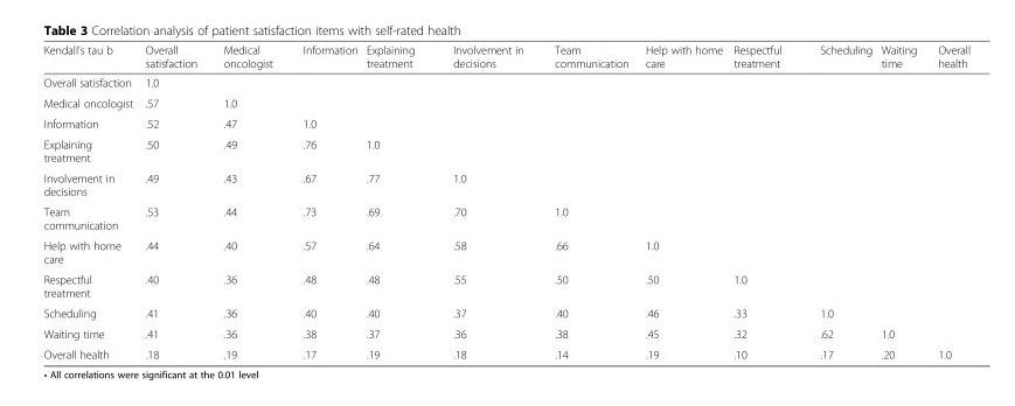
<table><thead><tr><td>Kendall’s tau b</td><td>Overall satisfaction</td><td>Medical oncologist</td><td>Information</td><td>Explaining treatment</td><td>Involvement in decisions</td><td>Team communication</td><td>Help with home care</td><td>Respectful treatment</td><td>Scheduling</td><td>Waiting time</td><td>Overall health</td></tr></thead><tbody><tr><td>Overall satisfaction</td><td>1.0</td><td></td><td></td><td></td><td></td><td></td><td></td><td></td><td></td><td></td><td></td></tr><tr><td>Medical oncologist</td><td>.57</td><td>1.0</td><td></td><td></td><td></td><td></td><td></td><td></td><td></td><td></td><td></td></tr><tr><td>Information</td><td>.52</td><td>.47</td><td>1.0</td><td></td><td></td><td></td><td></td><td></td><td></td><td></td><td></td></tr><tr><td>Explaining treatment</td><td>.50</td><td>.49</td><td>.76</td><td>1.0</td><td></td><td></td><td></td><td></td><td></td><td></td><td></td></tr><tr><td>Involvement in decisions</td><td>.49</td><td>.43</td><td>.67</td><td>.77</td><td>1.0</td><td></td><td></td><td></td><td></td><td></td><td></td></tr><tr><td>Team communication</td><td>.53</td><td>.44</td><td>.73</td><td>.69</td><td>.70</td><td>1.0</td><td></td><td></td><td></td><td></td><td></td></tr><tr><td>Help with home care</td><td>.44</td><td>.40</td><td>.57</td><td>.64</td><td>.58</td><td>.66</td><td>1.0</td><td></td><td></td><td></td><td></td></tr><tr><td>Respectful treatment</td><td>.40</td><td>.36</td><td>.48</td><td>.48</td><td>.55</td><td>.50</td><td>.50</td><td>1.0</td><td></td><td></td><td></td></tr><tr><td>Scheduling</td><td>.41</td><td>.36</td><td>.40</td><td>.40</td><td>.37</td><td>.40</td><td>.46</td><td>.33</td><td>1.0</td><td></td><td></td></tr><tr><td>Waiting time</td><td>.41</td><td>.36</td><td>.38</td><td>.37</td><td>.36</td><td>.38</td><td>.45</td><td>.32</td><td>.62</td><td>1.0</td><td></td></tr><tr><td>Overall health</td><td>.18</td><td>.19</td><td>.17</td><td>.19</td><td>.18</td><td>.14</td><td>.19</td><td>.10</td><td>.17</td><td>.20</td><td>1.0</td></tr></tbody></table>